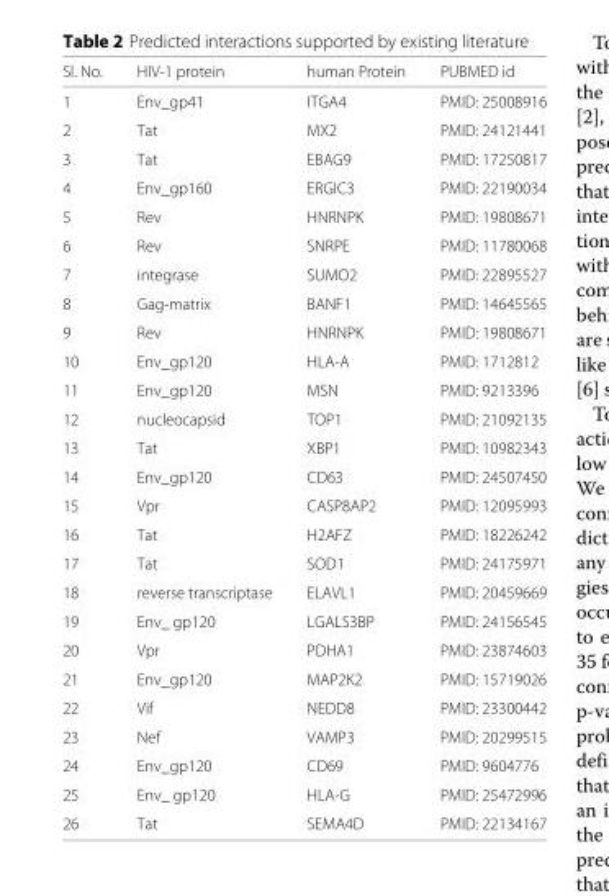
<table><thead><tr><td>Sl. No.</td><td>HIV-1 protein</td><td>human Protein</td><td>PUBMED id</td></tr></thead><tbody><tr><td>1</td><td>Env_gp41</td><td>ITGA4</td><td>PMID: 25008916</td></tr><tr><td>2</td><td>Tat</td><td>MX2</td><td>PMID: 24121441</td></tr><tr><td>3</td><td>Tat</td><td>EBAG9</td><td>PMID: 17250817</td></tr><tr><td>4</td><td>Env_gp160</td><td>ERGIC3</td><td>PMID: 22190034</td></tr><tr><td>5</td><td>Rev</td><td>HNRNPK</td><td>PMID: 19808671</td></tr><tr><td>6</td><td>Rev</td><td>SNRPE</td><td>PMID: 11780068</td></tr><tr><td>7</td><td>integrase</td><td>SUMO2</td><td>PMID: 22895527</td></tr><tr><td>8</td><td>Gag-matrix</td><td>BANF1</td><td>PMID: 14645565</td></tr><tr><td>9</td><td>Rev</td><td>HNRNPK</td><td>PMID: 19808671</td></tr><tr><td>10</td><td>Env_gp120</td><td>HLA-A</td><td>PMID: 1712812</td></tr><tr><td>11</td><td>Env_gp120</td><td>MSN</td><td>PMID: 9213396</td></tr><tr><td>12</td><td>nucleocapsid</td><td>TOP1</td><td>PMID: 21092135</td></tr><tr><td>13</td><td>Tat</td><td>XBP1</td><td>PMID: 10982343</td></tr><tr><td>14</td><td>Env_gp120</td><td>CD63</td><td>PMID: 24507450</td></tr><tr><td>15</td><td>Vpr</td><td>CASP8AP2</td><td>PMID: 12095993</td></tr><tr><td>16</td><td>Tat</td><td>H2AFZ</td><td>PMID: 18226242</td></tr><tr><td>17</td><td>Tat</td><td>SOD1</td><td>PMID: 24175971</td></tr><tr><td>18</td><td>reverse transcriptase</td><td>ELAVL1</td><td>PMID: 20459669</td></tr><tr><td>19</td><td>Env_ gp120</td><td>LGALS3BP</td><td>PMID: 24156545</td></tr><tr><td>20</td><td>Vpr</td><td>PDHA1</td><td>PMID: 23874603</td></tr><tr><td>21</td><td>Env_gp120</td><td>MAP2K2</td><td>PMID: 15719026</td></tr><tr><td>22</td><td>Vif</td><td>NEDD8</td><td>PMID: 23300442</td></tr><tr><td>23</td><td>Nef</td><td>VAMP3</td><td>PMID: 20299515</td></tr><tr><td>24</td><td>Env_gp120</td><td>CD69</td><td>PMID: 9604776</td></tr><tr><td>25</td><td>Env_ gp120</td><td>HLA-G</td><td>PMID: 25472996</td></tr><tr><td>26</td><td>Tat</td><td>SEMA4D</td><td>PMID: 22134167</td></tr></tbody></table>